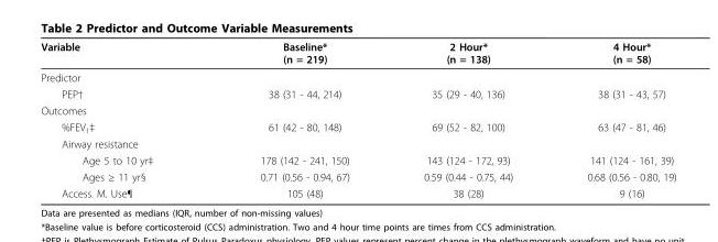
<table><thead><tr><td>Variable</td><td>Baseline* (n = 219)</td><td>2 Hour* (n = 138)</td><td>4 Hour* (n = 58)</td></tr></thead><tbody><tr><td colspan="4">Predictor</td></tr><tr><td>PEP†</td><td>38 (31 - 44, 214)</td><td>35 (29 - 40, 136)</td><td>38 (31 - 43, 57)</td></tr><tr><td colspan="4">Outcomes</td></tr><tr><td>%FEV<sub>1</sub>‡</td><td>61 (42 - 80, 148)</td><td>69 (52 - 82, 100)</td><td>63 (47 - 81, 46)</td></tr><tr><td colspan="4">Airway resistance</td></tr><tr><td>Age 5 to 10 yr‡</td><td>178 (142 - 241, 150)</td><td>143 (124 - 172, 93)</td><td>141 (124 - 161, 39)</td></tr><tr><td>Ages ≥ 11 yr§</td><td>0.71 (0.56 - 0.94, 67)</td><td>0.59 (0.44 - 0.75, 44)</td><td>0.68 (0.56 - 0.80, 19)</td></tr><tr><td>Access. M. Use¶</td><td>105 (48)</td><td>38 (28)</td><td>9 (16)</td></tr></tbody></table>